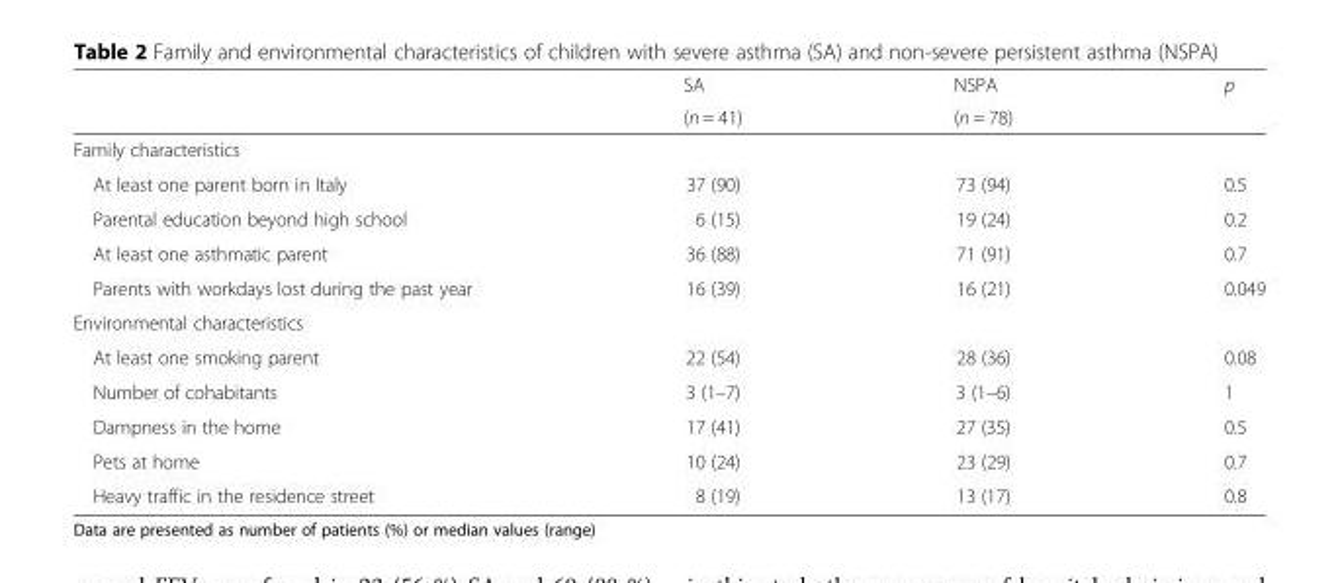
<table><thead><tr><td rowspan="2"></td><td rowspan="2">SA (n = 41)</td><td rowspan="2">NSPA (n = 78)</td><td rowspan="2">p</td></tr><tr></tr></thead><tbody><tr><td colspan="4">Family characteristics</td></tr><tr><td>At least one parent born in Italy</td><td>37 (90)</td><td>73 (94)</td><td>0.5</td></tr><tr><td>Parental education beyond high school</td><td>6 (15)</td><td>19 (24)</td><td>0.2</td></tr><tr><td>At least one asthmatic parent</td><td>36 (88)</td><td>71 (91)</td><td>0.7</td></tr><tr><td>Parents with workdays lost during the past year</td><td>16 (39)</td><td>16 (21)</td><td>0.049</td></tr><tr><td colspan="4">Environmental characteristics</td></tr><tr><td>At least one smoking parent</td><td>22 (54)</td><td>28 (36)</td><td>0.08</td></tr><tr><td>Number of cohabitants</td><td>3 (1–7)</td><td>3 (1–6)</td><td>1</td></tr><tr><td>Dampness in the home</td><td>17 (41)</td><td>27 (35)</td><td>0.5</td></tr><tr><td>Pets at home</td><td>10 (24)</td><td>23 (29)</td><td>0.7</td></tr><tr><td>Heavy traffic in the residence street</td><td>8 (19)</td><td>13 (17)</td><td>0.8</td></tr></tbody></table>